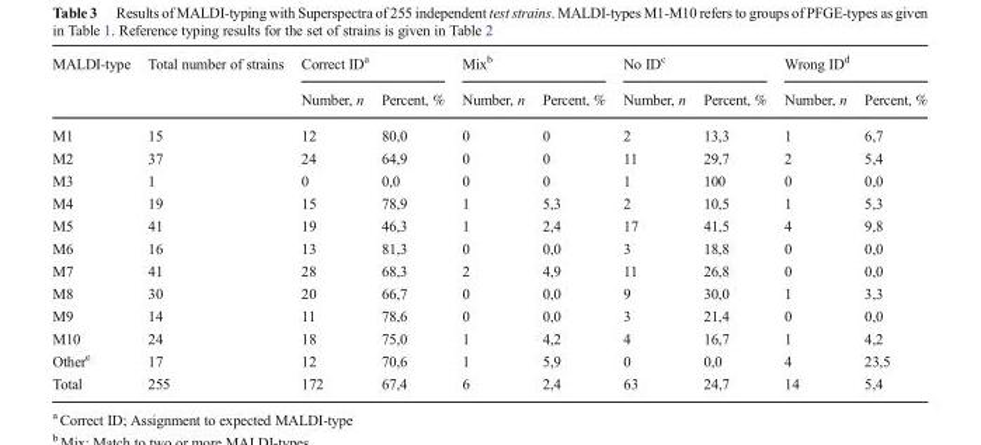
<table><thead><tr><td rowspan="2">MALDI-type</td><td rowspan="2">Total number of strains</td><td colspan="2">Correct ID<sup>a</sup></td><td colspan="2">Mix<sup>b</sup></td><td colspan="2">No ID<sup>c</sup></td><td colspan="2">Wrong ID<sup>d</sup></td></tr><tr><td>Number, n</td><td>Percent, %</td><td>Number, n</td><td>Percent, %</td><td>Number, n</td><td>Percent, %</td><td>Number, n</td><td>Percent, %</td></tr></thead><tbody><tr><td>M1</td><td>15</td><td>12</td><td>80,0</td><td>0</td><td>0</td><td>2</td><td>13,3</td><td>1</td><td>6,7</td></tr><tr><td>M2</td><td>37</td><td>24</td><td>64,9</td><td>0</td><td>0</td><td>11</td><td>29,7</td><td>2</td><td>5,4</td></tr><tr><td>M3</td><td>1</td><td>0</td><td>0,0</td><td>0</td><td>0</td><td>1</td><td>100</td><td>0</td><td>0,0</td></tr><tr><td>M4</td><td>19</td><td>15</td><td>78,9</td><td>1</td><td>5,3</td><td>2</td><td>10,5</td><td>1</td><td>5,3</td></tr><tr><td>M5</td><td>41</td><td>19</td><td>46,3</td><td>1</td><td>2,4</td><td>17</td><td>41,5</td><td>4</td><td>9,8</td></tr><tr><td>M6</td><td>16</td><td>13</td><td>81,3</td><td>0</td><td>0,0</td><td>3</td><td>18,8</td><td>0</td><td>0,0</td></tr><tr><td>M7</td><td>41</td><td>28</td><td>68,3</td><td>2</td><td>4,9</td><td>11</td><td>26,8</td><td>0</td><td>0,0</td></tr><tr><td>M8</td><td>30</td><td>20</td><td>66,7</td><td>0</td><td>0,0</td><td>9</td><td>30,0</td><td>1</td><td>3,3</td></tr><tr><td>M9</td><td>14</td><td>11</td><td>78,6</td><td>0</td><td>0,0</td><td>3</td><td>21,4</td><td>0</td><td>0,0</td></tr><tr><td>M10</td><td>24</td><td>18</td><td>75,0</td><td>1</td><td>4,2</td><td>4</td><td>16,7</td><td>1</td><td>4,2</td></tr><tr><td>Other<sup>e</sup></td><td>17</td><td>12</td><td>70,6</td><td>1</td><td>5,9</td><td>0</td><td>0,0</td><td>4</td><td>23,5</td></tr><tr><td>Total</td><td>255</td><td>172</td><td>67,4</td><td>6</td><td>2,4</td><td>63</td><td>24,7</td><td>14</td><td>5,4</td></tr></tbody></table>